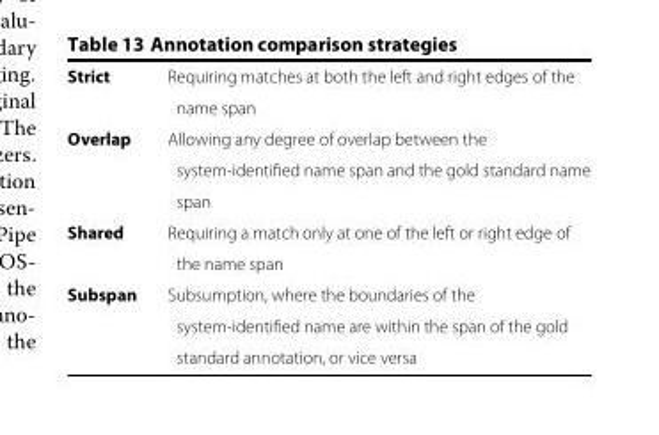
<table><tbody><tr><td>Strict</td><td>Requiring matches at both the left and right edges of the name span</td></tr><tr><td>Overlap</td><td>Allowing any degree of overlap between the system-identified name span and the gold standard name span</td></tr><tr><td>Shared</td><td>Requiring a match only at one of the left or right edge of the name span</td></tr><tr><td>Subspan</td><td>Subsumption, where the boundaries of the system-identified name are within the span of the gold standard annotation, or vice versa</td></tr></tbody></table>